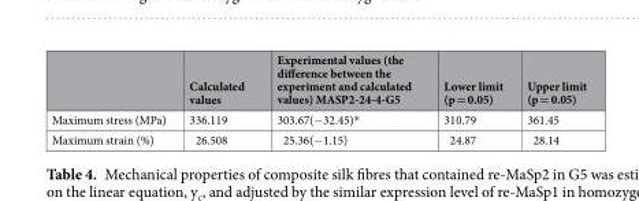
<table><thead><tr><td></td><td>Calculated values</td><td>Experimental values (the difference between the experiment and calculated values) MASP2-24-4-G5</td><td>Lower limit (p = 0.05)</td><td>Upper limit (p = 0.05)</td></tr></thead><tbody><tr><td>Maximum stress (MPa)</td><td>336.119</td><td>303.67(−32.45)*</td><td>310.79</td><td>361.45</td></tr><tr><td>Maximum strain (%)</td><td>26.508</td><td>25.36(−1.15)</td><td>24.87</td><td>28.14</td></tr></tbody></table>